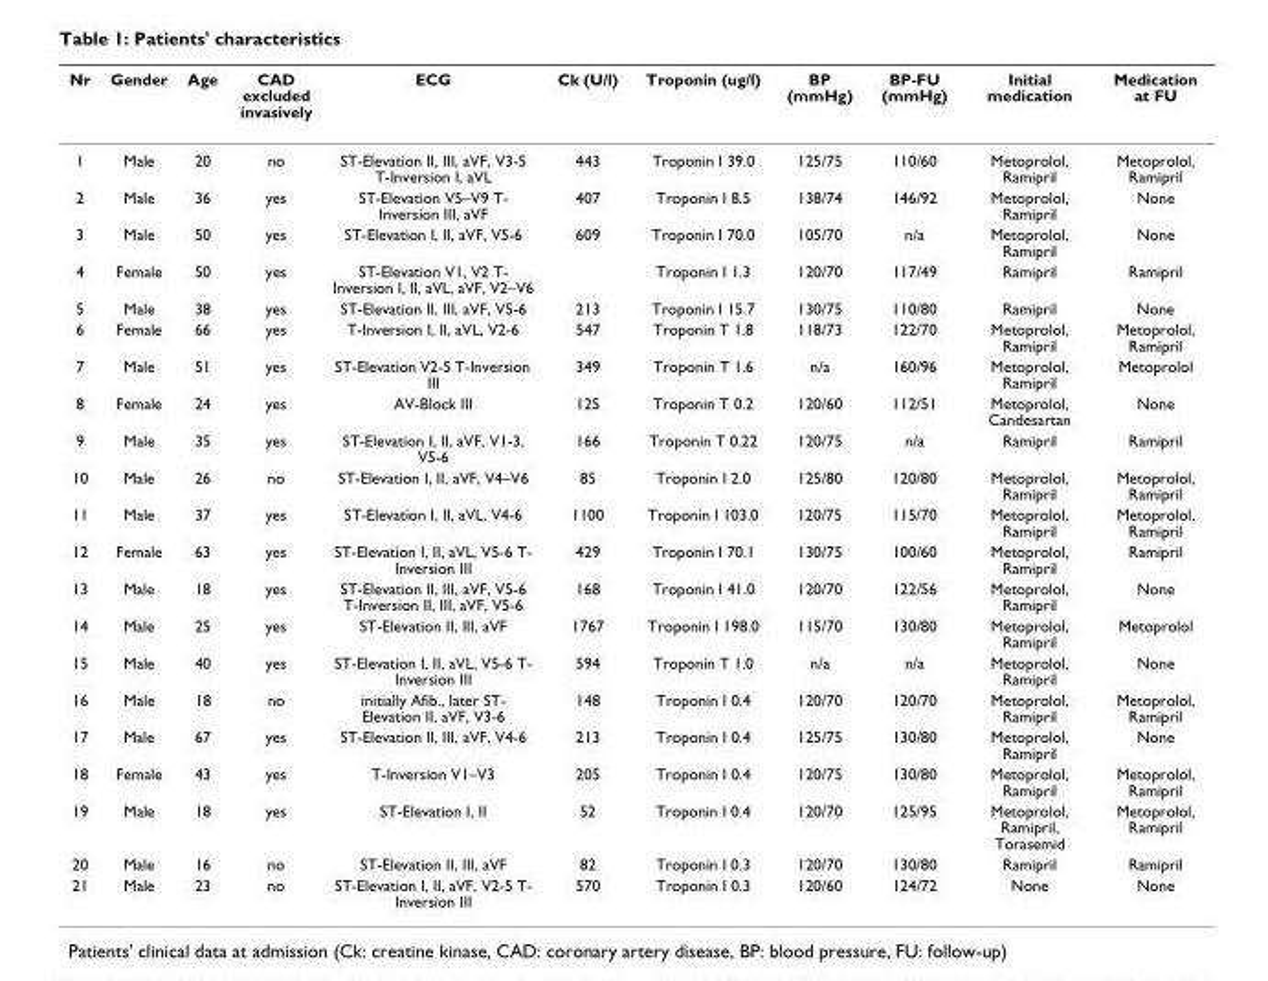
<table><thead><tr><td>Nr</td><td>Gender</td><td>Age</td><td>CAD excluded invasively</td><td>ECG</td><td>Ck (U/l)</td><td>Troponin (ug/l)</td><td>BP (mmHg)</td><td>BP-FU (mmHg)</td><td>Initial medication</td><td>Medication at FU</td></tr></thead><tbody><tr><td>1</td><td>Male</td><td>20</td><td>no</td><td>ST-Elevation II, III, aVF, V3-5 T-Inversion I, aVL</td><td>443</td><td>Troponin I 39.0</td><td>125/75</td><td>110/60</td><td>Metoprolol, Ramipril</td><td>Metoprolol, Ramipril</td></tr><tr><td>2</td><td>Male</td><td>36</td><td>yes</td><td>ST-Elevation V5–V9 T- Inversion III, aVF</td><td>407</td><td>Troponin I 8.5</td><td>138/74</td><td>146/92</td><td>Metoprolol, Ramipril</td><td>None</td></tr><tr><td>3</td><td>Male</td><td>50</td><td>yes</td><td>ST-Elevation I, II, aVF, V5-6</td><td>609</td><td>Troponin I 70.0</td><td>105/70</td><td>n/a</td><td>Metoprolol, Ramipril</td><td>None</td></tr><tr><td>4</td><td>Female</td><td>50</td><td>yes</td><td>ST-Elevation V1, V2 T- Inversion I, II, aVL, aVF, V2–V6</td><td></td><td>Troponin I 1.3</td><td>120/70</td><td>117/49</td><td>Ramipril</td><td>Ramipril</td></tr><tr><td>5</td><td>Male</td><td>38</td><td>yes</td><td>ST-Elevation II, III, aVF, V5-6</td><td>213</td><td>Troponin I 15.7</td><td>130/75</td><td>110/80</td><td>Ramipril</td><td>None</td></tr><tr><td>6</td><td>Female</td><td>66</td><td>yes</td><td>T-Inversion I, II, aVL, V2-6</td><td>547</td><td>Troponin T 1.8</td><td>118/73</td><td>122/70</td><td>Metoprolol, Ramipril</td><td>Metoprolol, Ramipril</td></tr><tr><td>7</td><td>Male</td><td>51</td><td>yes</td><td>ST-Elevation V2-5 T-Inversion III</td><td>349</td><td>Troponin T 1.6</td><td>n/a</td><td>160/96</td><td>Metoprolol, Ramipril</td><td>Metoprolol</td></tr><tr><td>8</td><td>Female</td><td>24</td><td>yes</td><td>AV-Block III</td><td>125</td><td>Troponin T 0.2</td><td>120/60</td><td>112/51</td><td>Metoprolol, Candesartan</td><td>None</td></tr><tr><td>9</td><td>Male</td><td>35</td><td>yes</td><td>ST-Elevation I, II, aVF, V1-3, V5-6</td><td>166</td><td>Troponin T 0.22</td><td>120/75</td><td>n/a</td><td>Ramipril</td><td>Ramipril</td></tr><tr><td>10</td><td>Male</td><td>26</td><td>no</td><td>ST-Elevation I, II, aVF, V4–V6</td><td>85</td><td>Troponin I 2.0</td><td>125/80</td><td>120/80</td><td>Metoprolol, Ramipril</td><td>Metoprolol, Ramipril</td></tr><tr><td>11</td><td>Male</td><td>37</td><td>yes</td><td>ST-Elevation I, II, aVL, V4-6</td><td>1100</td><td>Troponin I 103.0</td><td>120/75</td><td>115/70</td><td>Metoprolol, Ramipril</td><td>Metoprolol, Ramipril</td></tr><tr><td>12</td><td>Female</td><td>63</td><td>yes</td><td>ST-Elevation I, II, aVL, V5-6 T- Inversion III</td><td>429</td><td>Troponin I 70.1</td><td>130/75</td><td>100/60</td><td>Metoprolol, Ramipril</td><td>Ramipril</td></tr><tr><td>13</td><td>Male</td><td>18</td><td>yes</td><td>ST-Elevation II, III, aVF, V5-6 T-Inversion II, III, aVF, V5-6</td><td>168</td><td>Troponin I 41.0</td><td>120/70</td><td>122/56</td><td>Metoprolol, Ramipril</td><td>None</td></tr><tr><td>14</td><td>Male</td><td>25</td><td>yes</td><td>ST-Elevation II, III, aVF</td><td>1767</td><td>Troponin I 198.0</td><td>115/70</td><td>130/80</td><td>Metoprolol, Ramipril</td><td>Metoprolol</td></tr><tr><td>15</td><td>Male</td><td>40</td><td>yes</td><td>ST-Elevation I, II, aVL, V5-6 T- Inversion III</td><td>594</td><td>Troponin T 1.0</td><td>n/a</td><td>n/a</td><td>Metoprolol, Ramipril</td><td>None</td></tr><tr><td>16</td><td>Male</td><td>18</td><td>no</td><td>initially Afib., later ST- Elevation II, aVF, V3-6</td><td>148</td><td>Troponin I 0.4</td><td>120/70</td><td>120/70</td><td>Metoprolol, Ramipril</td><td>Metoprolol, Ramipril</td></tr><tr><td>17</td><td>Male</td><td>67</td><td>yes</td><td>ST-Elevation II, III, aVF, V4-6</td><td>213</td><td>Troponin I 0.4</td><td>125/75</td><td>130/80</td><td>Metoprolol, Ramipril</td><td>None</td></tr><tr><td>18</td><td>Female</td><td>43</td><td>yes</td><td>T-Inversion V1–V3</td><td>205</td><td>Troponin I 0.4</td><td>120/75</td><td>130/80</td><td>Metoprolol, Ramipril</td><td>Metoprolol, Ramipril</td></tr><tr><td>19</td><td>Male</td><td>18</td><td>yes</td><td>ST-Elevation I, II</td><td>52</td><td>Troponin I 0.4</td><td>120/70</td><td>125/95</td><td>Metoprolol, Ramipril, Torasemid</td><td>Metoprolol, Ramipril</td></tr><tr><td>20</td><td>Male</td><td>16</td><td>no</td><td>ST-Elevation II, III, aVF</td><td>82</td><td>Troponin I 0.3</td><td>120/70</td><td>130/80</td><td>Ramipril</td><td>Ramipril</td></tr><tr><td>21</td><td>Male</td><td>23</td><td>no</td><td>ST-Elevation I, II, aVF, V2-5 T- Inversion III</td><td>570</td><td>Troponin I 0.3</td><td>120/60</td><td>124/72</td><td>None</td><td>None</td></tr></tbody></table>